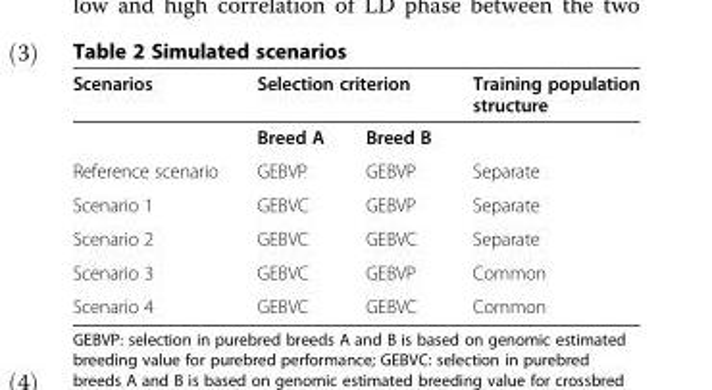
<table><thead><tr><td rowspan="2">Scenarios</td><td colspan="2">Selection criterion</td><td rowspan="2">Training population structure</td></tr><tr><td>Breed A</td><td>Breed B</td></tr></thead><tbody><tr><td>Reference scenario</td><td>GEBVP</td><td>GEBVP</td><td>Separate</td></tr><tr><td>Scenario 1</td><td>GEBVC</td><td>GEBVP</td><td>Separate</td></tr><tr><td>Scenario 2</td><td>GEBVC</td><td>GEBVC</td><td>Separate</td></tr><tr><td>Scenario 3</td><td>GEBVC</td><td>GEBVP</td><td>Common</td></tr><tr><td>Scenario 4</td><td>GEBVC</td><td>GEBVC</td><td>Common</td></tr></tbody></table>